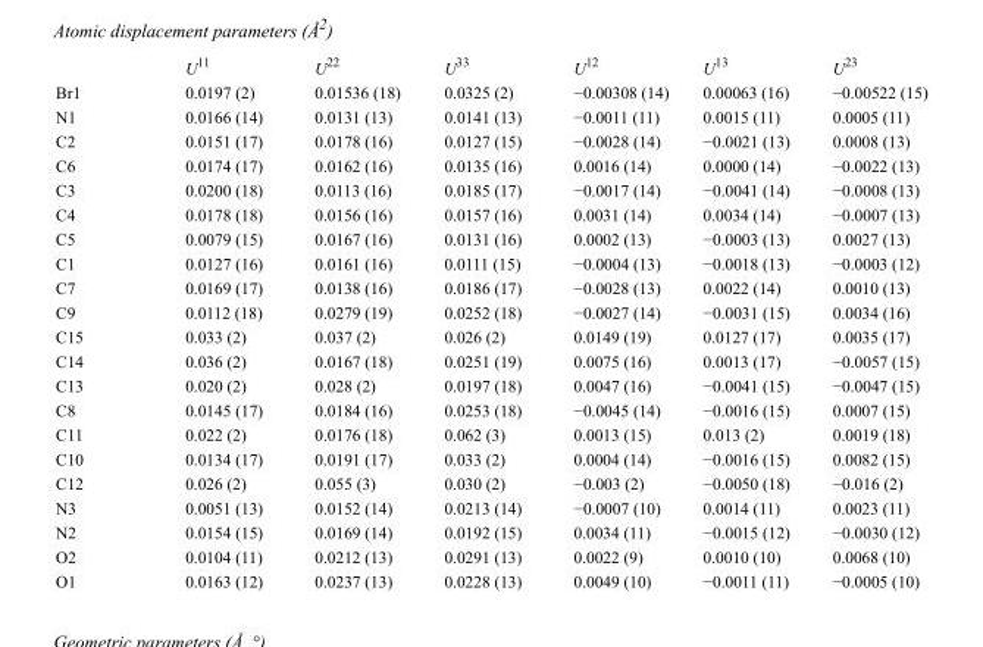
<table><thead><tr><td></td><td>U<sup>11</sup></td><td>U<sup>22</sup></td><td>U<sup>33</sup></td><td>U<sup>12</sup></td><td>U<sup>13</sup></td><td>U<sup>23</sup></td></tr></thead><tbody><tr><td>Br1</td><td>0.0197 (2)</td><td>0.01536 (18)</td><td>0.0325 (2)</td><td>−0.00308 (14)</td><td>0.00063 (16)</td><td>−0.00522 (15)</td></tr><tr><td>N1</td><td>0.0166 (14)</td><td>0.0131 (13)</td><td>0.0141 (13)</td><td>−0.0011 (11)</td><td>0.0015 (11)</td><td>0.0005 (11)</td></tr><tr><td>C2</td><td>0.0151 (17)</td><td>0.0178 (16)</td><td>0.0127 (15)</td><td>−0.0028 (14)</td><td>−0.0021 (13)</td><td>0.0008 (13)</td></tr><tr><td>C6</td><td>0.0174 (17)</td><td>0.0162 (16)</td><td>0.0135 (16)</td><td>0.0016 (14)</td><td>0.0000 (14)</td><td>−0.0022 (13)</td></tr><tr><td>C3</td><td>0.0200 (18)</td><td>0.0113 (16)</td><td>0.0185 (17)</td><td>−0.0017 (14)</td><td>−0.0041 (14)</td><td>−0.0008 (13)</td></tr><tr><td>C4</td><td>0.0178 (18)</td><td>0.0156 (16)</td><td>0.0157 (16)</td><td>0.0031 (14)</td><td>0.0034 (14)</td><td>−0.0007 (13)</td></tr><tr><td>C5</td><td>0.0079 (15)</td><td>0.0167 (16)</td><td>0.0131 (16)</td><td>0.0002 (13)</td><td>−0.0003 (13)</td><td>0.0027 (13)</td></tr><tr><td>C1</td><td>0.0127 (16)</td><td>0.0161 (16)</td><td>0.0111 (15)</td><td>−0.0004 (13)</td><td>−0.0018 (13)</td><td>−0.0003 (12)</td></tr><tr><td>C7</td><td>0.0169 (17)</td><td>0.0138 (16)</td><td>0.0186 (17)</td><td>−0.0028 (13)</td><td>0.0022 (14)</td><td>0.0010 (13)</td></tr><tr><td>C9</td><td>0.0112 (18)</td><td>0.0279 (19)</td><td>0.0252 (18)</td><td>−0.0027 (14)</td><td>−0.0031 (15)</td><td>0.0034 (16)</td></tr><tr><td>C15</td><td>0.033 (2)</td><td>0.037 (2)</td><td>0.026 (2)</td><td>0.0149 (19)</td><td>0.0127 (17)</td><td>0.0035 (17)</td></tr><tr><td>C14</td><td>0.036 (2)</td><td>0.0167 (18)</td><td>0.0251 (19)</td><td>0.0075 (16)</td><td>0.0013 (17)</td><td>−0.0057 (15)</td></tr><tr><td>C13</td><td>0.020 (2)</td><td>0.028 (2)</td><td>0.0197 (18)</td><td>0.0047 (16)</td><td>−0.0041 (15)</td><td>−0.0047 (15)</td></tr><tr><td>C8</td><td>0.0145 (17)</td><td>0.0184 (16)</td><td>0.0253 (18)</td><td>−0.0045 (14)</td><td>−0.0016 (15)</td><td>0.0007 (15)</td></tr><tr><td>C11</td><td>0.022 (2)</td><td>0.0176 (18)</td><td>0.062 (3)</td><td>0.0013 (15)</td><td>0.013 (2)</td><td>0.0019 (18)</td></tr><tr><td>C10</td><td>0.0134 (17)</td><td>0.0191 (17)</td><td>0.033 (2)</td><td>0.0004 (14)</td><td>−0.0016 (15)</td><td>0.0082 (15)</td></tr><tr><td>C12</td><td>0.026 (2)</td><td>0.055 (3)</td><td>0.030 (2)</td><td>−0.003 (2)</td><td>−0.0050 (18)</td><td>−0.016 (2)</td></tr><tr><td>N3</td><td>0.0051 (13)</td><td>0.0152 (14)</td><td>0.0213 (14)</td><td>−0.0007 (10)</td><td>0.0014 (11)</td><td>0.0023 (11)</td></tr><tr><td>N2</td><td>0.0154 (15)</td><td>0.0169 (14)</td><td>0.0192 (15)</td><td>0.0034 (11)</td><td>−0.0015 (12)</td><td>−0.0030 (12)</td></tr><tr><td>O2</td><td>0.0104 (11)</td><td>0.0212 (13)</td><td>0.0291 (13)</td><td>0.0022 (9)</td><td>0.0010 (10)</td><td>0.0068 (10)</td></tr><tr><td>O1</td><td>0.0163 (12)</td><td>0.0237 (13)</td><td>0.0228 (13)</td><td>0.0049 (10)</td><td>−0.0011 (11)</td><td>−0.0005 (10)</td></tr></tbody></table>